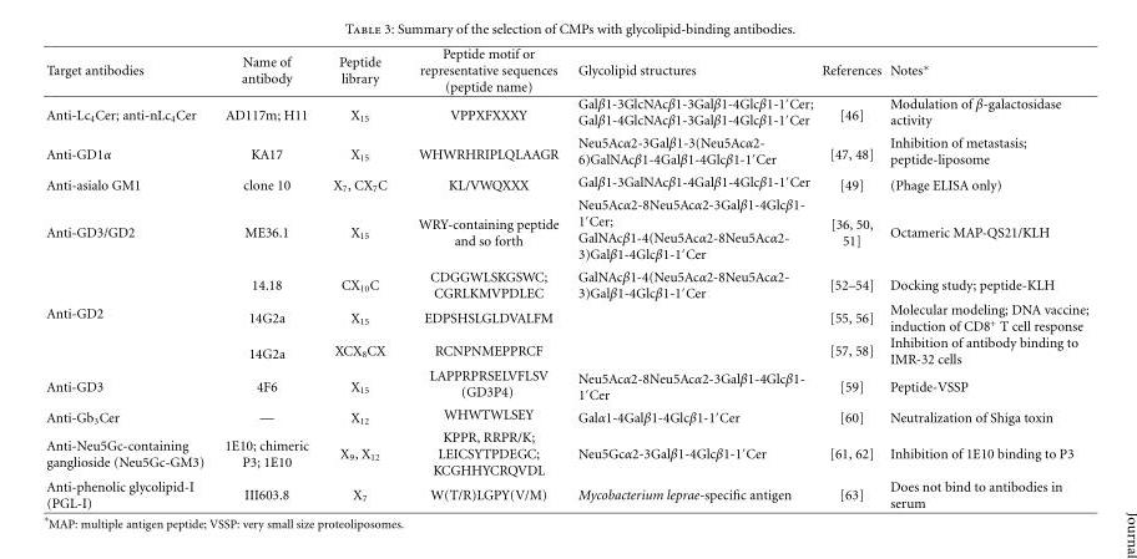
<table><thead><tr><td>Target antibodies</td><td>Name of antibody</td><td>Peptide library</td><td>Peptide motif or representative sequences (peptide name)</td><td>Glycolipid structures</td><td>References</td><td>Notes∗</td></tr></thead><tbody><tr><td>Anti-Lc<sub>4</sub>Cer; anti-nLc<sub>4</sub>Cer</td><td>AD117m; H11</td><td>X<sub>15</sub></td><td>VPPXFXXXY</td><td>Galβ1-3GlcNAcβ1-3Galβ1-4Glcβ1-1′Cer; Galβ1-4GlcNAcβ1-3Galβ1-4Glcβ1-1′Cer</td><td>[46]</td><td>Modulation of β-galactosidase activity</td></tr><tr><td>Anti-GD1α</td><td>KA17</td><td>X<sub>15</sub></td><td>WHWRHRIPLQLAAGR</td><td>Neu5Acα2-3Galβ1-3(Neu5Acα2- 6)GalNAcβ1-4Galβ1-4Glcβ1-1′Cer</td><td>[47, 48]</td><td>Inhibition of metastasis; peptide-liposome</td></tr><tr><td>Anti-asialo GM1</td><td>clone 10</td><td>X<sub>7</sub>, CX<sub>7</sub>C</td><td>KL/VWQXXX</td><td>Galβ1-3GalNAcβ1-4Galβ1-4Glcβ1-1′Cer</td><td>[49]</td><td>(Phage ELISA only)</td></tr><tr><td>Anti-GD3/GD2</td><td>ME36.1</td><td>X<sub>15</sub></td><td>WRY-containing peptide and so forth</td><td>Neu5Acα2-8Neu5Acα2-3Galβ1-4Glcβ1- 1′Cer; GalNAcβ1-4(Neu5Acα2-8Neu5Acα2- 3)Galβ1-4Glcβ1-1′Cer</td><td>[36, 50, 51]</td><td>Octameric MAP-QS21/KLH</td></tr><tr><td rowspan="3">Anti-GD2</td><td>14.18</td><td>CX<sub>10</sub>C</td><td>CDGGWLSKGSWC; CGRLKMVPDLEC</td><td>GalNAcβ1-4(Neu5Acα2-8Neu5Acα2- 3)Galβ1-4Glcβ1-1′Cer</td><td>[52–54]</td><td>Docking study; peptide-KLH</td></tr><tr><td>14G2a</td><td>X<sub>15</sub></td><td>EDPSHSLGLDVALFM</td><td></td><td>[55, 56]</td><td>Molecular modeling; DNA vaccine; induction of CD8<sup>+</sup> T cell response</td></tr><tr><td>14G2a</td><td>XCX<sub>8</sub>CX</td><td>RCNPNMEPPRCF</td><td></td><td>[57, 58]</td><td>Inhibition of antibody binding to IMR-32 cells</td></tr><tr><td>Anti-GD3</td><td>4F6</td><td>X<sub>15</sub></td><td>LAPPRPRSELVFLSV (GD3P4)</td><td>Neu5Acα2-8Neu5Acα2-3Galβ1-4Glcβ1- 1′Cer</td><td>[59]</td><td>Peptide-VSSP</td></tr><tr><td>Anti-Gb<sub>3</sub>Cer</td><td>—</td><td>X<sub>12</sub></td><td>WHWTWLSEY</td><td>Galα1-4Galβ1-4Glcβ1-1′Cer</td><td>[60]</td><td>Neutralization of Shiga toxin</td></tr><tr><td>Anti-Neu5Gc-containing ganglioside (Neu5Gc-GM3)</td><td>1E10; chimeric P3; 1E10</td><td>X<sub>9</sub>, X<sub>12</sub></td><td>KPPR, RRPR/K; LEICSYTPDEGC; KCGHHYCRQVDL</td><td>Neu5Gcα2-3Galβ1-4Glcβ1-1′Cer</td><td>[61, 62]</td><td>Inhibition of 1E10 binding to P3</td></tr><tr><td>Anti-phenolic glycolipid-I (PGL-I)</td><td>III603.8</td><td>X<sub>7</sub></td><td>W(T/R)LGPY(V/M)</td><td>Mycobacterium leprae-specific antigen</td><td>[63]</td><td>Does not bind to antibodies in serum</td></tr></tbody></table>